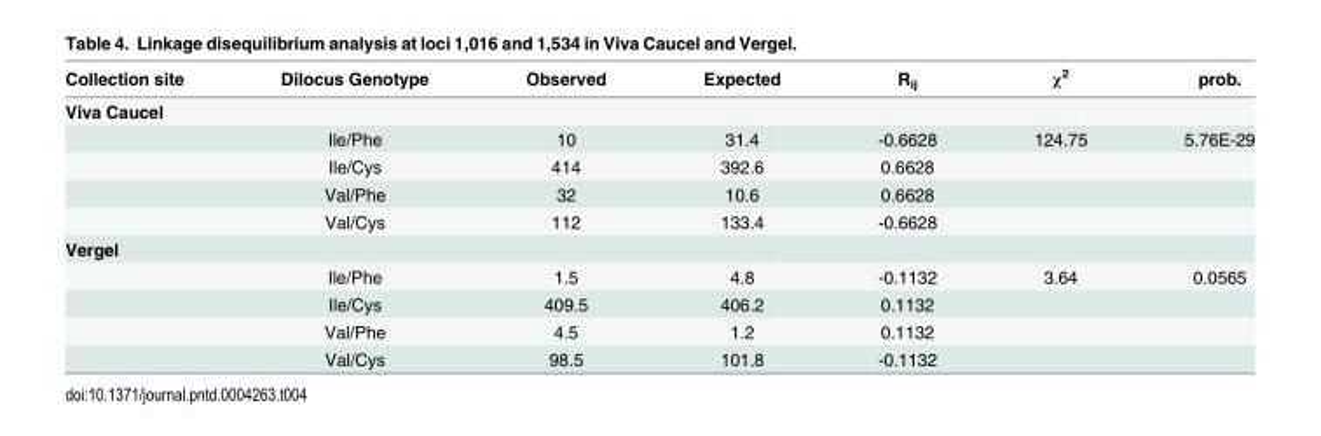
<table><thead><tr><td>Collection site</td><td>Dilocus Genotype</td><td>Observed</td><td>Expected</td><td>R<sub>ij</sub></td><td>χ<sup>2</sup></td><td>prob.</td></tr></thead><tbody><tr><td colspan="7">Viva Caucel</td></tr><tr><td></td><td>Ile/Phe</td><td>10</td><td>31.4</td><td>-0.6628</td><td>124.75</td><td>5.76E-29</td></tr><tr><td></td><td>Ile/Cys</td><td>414</td><td>392.6</td><td>0.6628</td><td></td><td></td></tr><tr><td></td><td>Val/Phe</td><td>32</td><td>10.6</td><td>0.6628</td><td></td><td></td></tr><tr><td></td><td>Val/Cys</td><td>112</td><td>133.4</td><td>-0.6628</td><td></td><td></td></tr><tr><td colspan="7">Vergel</td></tr><tr><td></td><td>Ile/Phe</td><td>1.5</td><td>4.8</td><td>-0.1132</td><td>3.64</td><td>0.0565</td></tr><tr><td></td><td>Ile/Cys</td><td>409.5</td><td>406.2</td><td>0.1132</td><td></td><td></td></tr><tr><td></td><td>Val/Phe</td><td>4.5</td><td>1.2</td><td>0.1132</td><td></td><td></td></tr><tr><td></td><td>Val/Cys</td><td>98.5</td><td>101.8</td><td>-0.1132</td><td></td><td></td></tr></tbody></table>